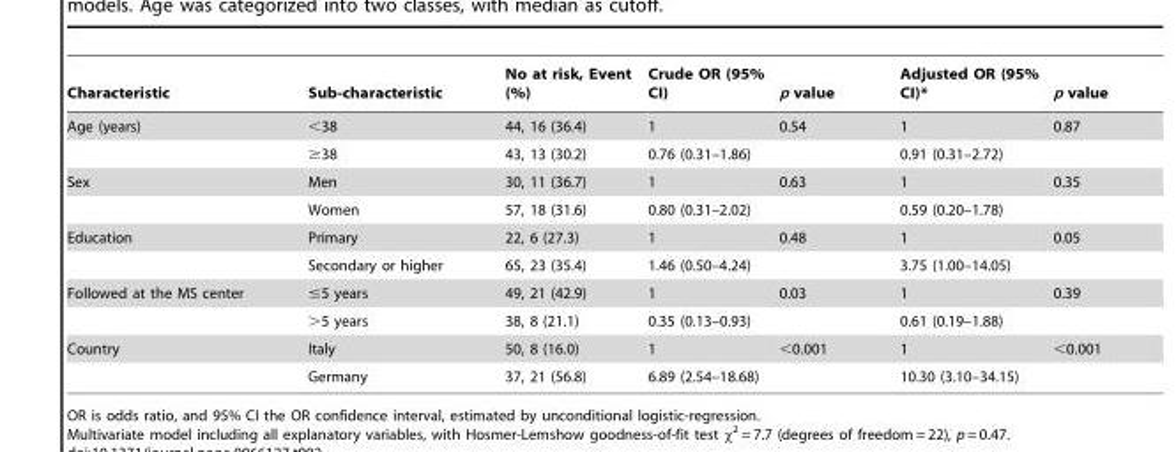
<table><thead><tr><td>Characteristic</td><td>Sub-characteristic</td><td>No at risk, Event (%)</td><td>Crude OR (95% CI)</td><td>p value</td><td>Adjusted OR (95% CI)*</td><td>p value</td></tr></thead><tbody><tr><td rowspan="2">Age (years)</td><td>&lt;38</td><td>44, 16 (36.4)</td><td>1</td><td>0.54</td><td>1</td><td>0.87</td></tr><tr><td>≥38</td><td>43, 13 (30.2)</td><td>0.76 (0.31–1.86)</td><td></td><td>0.91 (0.31–2.72)</td><td></td></tr><tr><td rowspan="2">Sex</td><td>Men</td><td>30, 11 (36.7)</td><td>1</td><td>0.63</td><td>1</td><td>0.35</td></tr><tr><td>Women</td><td>57, 18 (31.6)</td><td>0.80 (0.31–2.02)</td><td></td><td>0.59 (0.20–1.78)</td><td></td></tr><tr><td rowspan="2">Education</td><td>Primary</td><td>22, 6 (27.3)</td><td>1</td><td>0.48</td><td>1</td><td>0.05</td></tr><tr><td>Secondary or higher</td><td>65, 23 (35.4)</td><td>1.46 (0.50–4.24)</td><td></td><td>3.75 (1.00–14.05)</td><td></td></tr><tr><td rowspan="2">Followed at the MS center</td><td>≤5 years</td><td>49, 21 (42.9)</td><td>1</td><td>0.03</td><td>1</td><td>0.39</td></tr><tr><td>&gt;5 years</td><td>38, 8 (21.1)</td><td>0.35 (0.13–0.93)</td><td></td><td>0.61 (0.19–1.88)</td><td></td></tr><tr><td rowspan="2">Country</td><td>Italy</td><td>50, 8 (16.0)</td><td>1</td><td>&lt;0.001</td><td>1</td><td>&lt;0.001</td></tr><tr><td>Germany</td><td>37, 21 (56.8)</td><td>6.89 (2.54–18.68)</td><td></td><td>10.30 (3.10–34.15)</td><td></td></tr></tbody></table>